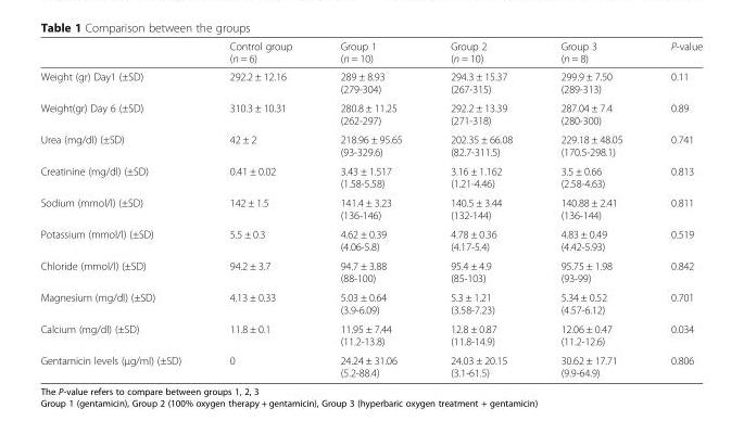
<table><thead><tr><td></td><td>Control group (n = 6)</td><td>Group 1 (n = 10)</td><td>Group 2 (n = 10)</td><td>Group 3 (n = 8)</td><td>P-value</td></tr></thead><tbody><tr><td>Weight (gr) Day1 (±SD)</td><td>292.2 ± 12.16</td><td>289 ± 8.93 (279-304)</td><td>294.3 ± 15.37 (267-315)</td><td>299.9 ± 7.50 (289-313)</td><td>0.11</td></tr><tr><td>Weight(gr) Day 6 (±SD)</td><td>310.3 ± 10.31</td><td>280.8 ± 11.25 (262-297)</td><td>292.2 ± 13.39 (271-318)</td><td>287.04 ± 7.4 (280-300)</td><td>0.89</td></tr><tr><td>Urea (mg/dl) (±SD)</td><td>42 ± 2</td><td>218.96 ± 95.65 (93-329.6)</td><td>202.35 ± 66.08 (82.7-311.5)</td><td>229.18 ± 48.05 (170.5-298.1)</td><td>0.741</td></tr><tr><td>Creatinine (mg/dl) (±SD)</td><td>0.41 ± 0.02</td><td>3.43 ± 1.517 (1.58-5.58)</td><td>3.16 ± 1.162 (1.21-4.46)</td><td>3.5 ± 0.66 (2.58-4.63)</td><td>0.813</td></tr><tr><td>Sodium (mmol/l) (±SD)</td><td>142 ± 1.5</td><td>141.4 ± 3.23 (136-146)</td><td>140.5 ± 3.44 (132-144)</td><td>140.88 ± 2.41 (136-144)</td><td>0.811</td></tr><tr><td>Potassium (mmol/l) (±SD)</td><td>5.5 ± 0.3</td><td>4.62 ± 0.39 (4.06-5.8)</td><td>4.78 ± 0.36 (4.17-5.4)</td><td>4.83 ± 0.49 (4.42-5.93)</td><td>0.519</td></tr><tr><td>Chloride (mmol/l) (±SD)</td><td>94.2 ± 3.7</td><td>94.7 ± 3.88 (88-100)</td><td>95.4 ± 4.9 (85-103)</td><td>95.75 ± 1.98 (93-99)</td><td>0.842</td></tr><tr><td>Magnesium (mg/dl) (±SD)</td><td>4.13 ± 0.33</td><td>5.03 ± 0.64 (3.9-6.09)</td><td>5.3 ± 1.21 (3.58-7.23)</td><td>5.34 ± 0.52 (4.57-6.12)</td><td>0.701</td></tr><tr><td>Calcium (mg/dl) (±SD)</td><td>11.8 ± 0.1</td><td>11.95 ± 7.44 (11.2-13.8)</td><td>12.8 ± 0.87 (11.8-14.9)</td><td>12.06 ± 0.47 (11.2-12.6)</td><td>0.034</td></tr><tr><td>Gentamicin levels (μg/ml) (±SD)</td><td>0</td><td>24.24 ± 31.06 (5.2-88.4)</td><td>24.03 ± 20.15 (3.1-61.5)</td><td>30.62 ± 17.71 (9.9-64.9)</td><td>0.806</td></tr></tbody></table>